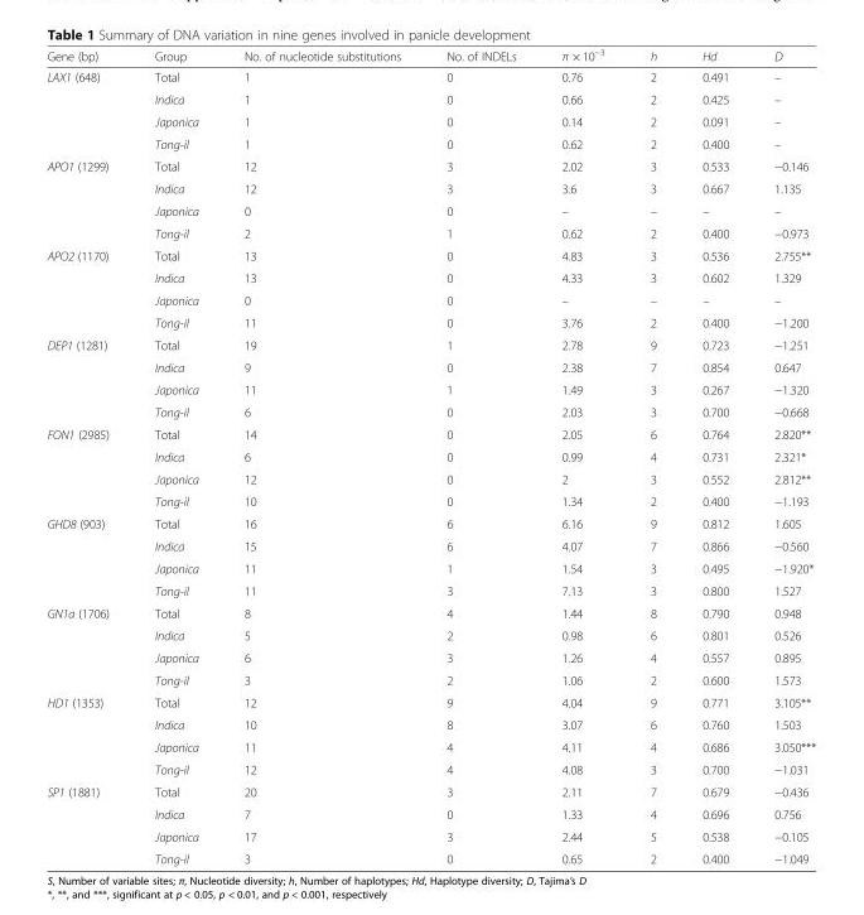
<table><thead><tr><td>Gene (bp)</td><td>Group</td><td>No. of nucleotide substitutions</td><td>No. of INDELs</td><td>π × 10<sup>−3</sup></td><td>h</td><td>Hd</td><td>D</td></tr></thead><tbody><tr><td rowspan="4">LAX1 (648)</td><td>Total</td><td>1</td><td>0</td><td>0.76</td><td>2</td><td>0.491</td><td>–</td></tr><tr><td>Indica</td><td>1</td><td>0</td><td>0.66</td><td>2</td><td>0.425</td><td>–</td></tr><tr><td>Japonica</td><td>1</td><td>0</td><td>0.14</td><td>2</td><td>0.091</td><td>–</td></tr><tr><td>Tong-il</td><td>1</td><td>0</td><td>0.62</td><td>2</td><td>0.400</td><td>–</td></tr><tr><td rowspan="4">APO1 (1299)</td><td>Total</td><td>12</td><td>3</td><td>2.02</td><td>3</td><td>0.533</td><td>−0.146</td></tr><tr><td>Indica</td><td>12</td><td>3</td><td>3.6</td><td>3</td><td>0.667</td><td>1.135</td></tr><tr><td>Japonica</td><td>0</td><td>0</td><td>–</td><td>–</td><td>–</td><td>–</td></tr><tr><td>Tong-il</td><td>2</td><td>1</td><td>0.62</td><td>2</td><td>0.400</td><td>−0.973</td></tr><tr><td rowspan="4">APO2 (1170)</td><td>Total</td><td>13</td><td>0</td><td>4.83</td><td>3</td><td>0.536</td><td>2.755**</td></tr><tr><td>Indica</td><td>13</td><td>0</td><td>4.33</td><td>3</td><td>0.602</td><td>1.329</td></tr><tr><td>Japonica</td><td>0</td><td>0</td><td>–</td><td>–</td><td>–</td><td>–</td></tr><tr><td>Tong-il</td><td>11</td><td>0</td><td>3.76</td><td>2</td><td>0.400</td><td>−1.200</td></tr><tr><td rowspan="4">DEP1 (1281)</td><td>Total</td><td>19</td><td>1</td><td>2.78</td><td>9</td><td>0.723</td><td>−1.251</td></tr><tr><td>Indica</td><td>9</td><td>0</td><td>2.38</td><td>7</td><td>0.854</td><td>0.647</td></tr><tr><td>Japonica</td><td>11</td><td>1</td><td>1.49</td><td>3</td><td>0.267</td><td>−1.320</td></tr><tr><td>Tong-il</td><td>6</td><td>0</td><td>2.03</td><td>3</td><td>0.700</td><td>−0.668</td></tr><tr><td rowspan="4">FON1 (2985)</td><td>Total</td><td>14</td><td>0</td><td>2.05</td><td>6</td><td>0.764</td><td>2.820**</td></tr><tr><td>Indica</td><td>6</td><td>0</td><td>0.99</td><td>4</td><td>0.731</td><td>2.321*</td></tr><tr><td>Japonica</td><td>12</td><td>0</td><td>2</td><td>3</td><td>0.552</td><td>2.812**</td></tr><tr><td>Tong-il</td><td>10</td><td>0</td><td>1.34</td><td>2</td><td>0.400</td><td>−1.193</td></tr><tr><td rowspan="4">GHD8 (903)</td><td>Total</td><td>16</td><td>6</td><td>6.16</td><td>9</td><td>0.812</td><td>1.605</td></tr><tr><td>Indica</td><td>15</td><td>6</td><td>4.07</td><td>7</td><td>0.866</td><td>−0.560</td></tr><tr><td>Japonica</td><td>11</td><td>1</td><td>1.54</td><td>3</td><td>0.495</td><td>−1.920*</td></tr><tr><td>Tong-il</td><td>11</td><td>3</td><td>7.13</td><td>3</td><td>0.800</td><td>1.527</td></tr><tr><td rowspan="4">GN1a (1706)</td><td>Total</td><td>8</td><td>4</td><td>1.44</td><td>8</td><td>0.790</td><td>0.948</td></tr><tr><td>Indica</td><td>5</td><td>2</td><td>0.98</td><td>6</td><td>0.801</td><td>0.526</td></tr><tr><td>Japonica</td><td>6</td><td>3</td><td>1.26</td><td>4</td><td>0.557</td><td>0.895</td></tr><tr><td>Tong-il</td><td>3</td><td>2</td><td>1.06</td><td>2</td><td>0.600</td><td>1.573</td></tr><tr><td rowspan="4">HD1 (1353)</td><td>Total</td><td>12</td><td>9</td><td>4.04</td><td>9</td><td>0.771</td><td>3.105**</td></tr><tr><td>Indica</td><td>10</td><td>8</td><td>3.07</td><td>6</td><td>0.760</td><td>1.503</td></tr><tr><td>Japonica</td><td>11</td><td>4</td><td>4.11</td><td>4</td><td>0.686</td><td>3.050***</td></tr><tr><td>Tong-il</td><td>12</td><td>4</td><td>4.08</td><td>3</td><td>0.700</td><td>−1.031</td></tr><tr><td rowspan="4">SP1 (1881)</td><td>Total</td><td>20</td><td>3</td><td>2.11</td><td>7</td><td>0.679</td><td>−0.436</td></tr><tr><td>Indica</td><td>7</td><td>0</td><td>1.33</td><td>4</td><td>0.696</td><td>0.756</td></tr><tr><td>Japonica</td><td>17</td><td>3</td><td>2.44</td><td>5</td><td>0.538</td><td>−0.105</td></tr><tr><td>Tong-il</td><td>3</td><td>0</td><td>0.65</td><td>2</td><td>0.400</td><td>−1.049</td></tr></tbody></table>